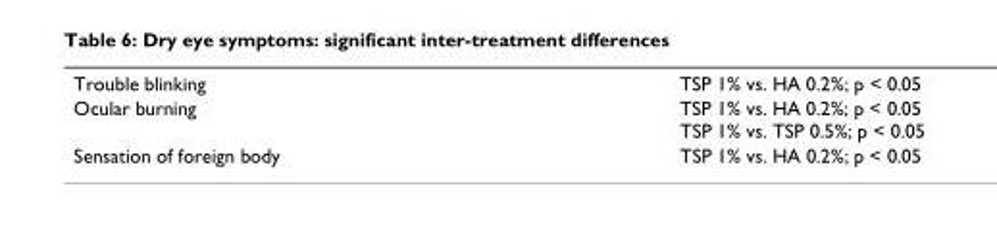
<table><tbody><tr><td>Trouble blinking</td><td>TSP 1% vs. HA 0.2%; p &lt; 0.05</td></tr><tr><td>Ocular burning</td><td>TSP 1% vs. HA 0.2%; p &lt; 0.05 TSP 1% vs. TSP 0.5%; p &lt; 0.05</td></tr><tr><td>Sensation of foreign body</td><td>TSP 1% vs. HA 0.2%; p &lt; 0.05</td></tr></tbody></table>